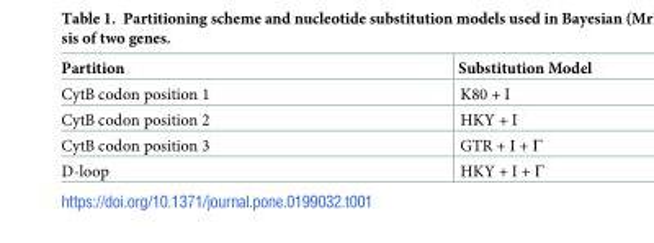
<table><thead><tr><td>Partition</td><td>Substitution Model</td></tr></thead><tbody><tr><td>CytB codon position 1</td><td>K80 + I</td></tr><tr><td>CytB codon position 2</td><td>HKY + I</td></tr><tr><td>CytB codon position 3</td><td>GTR + I + Γ</td></tr><tr><td>D-loop</td><td>HKY + I + Γ</td></tr></tbody></table>